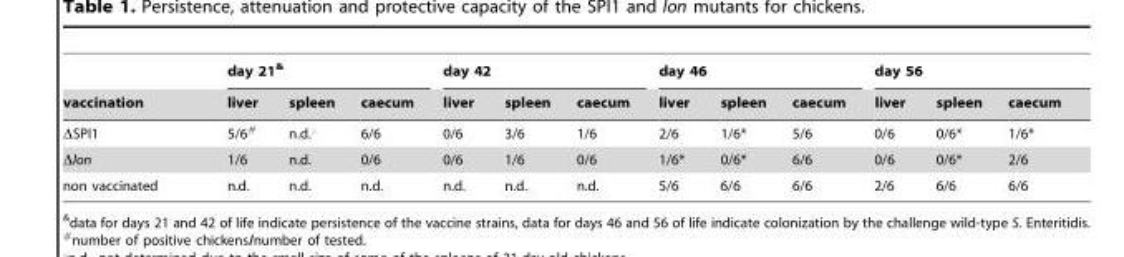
<table><thead><tr><td rowspan="2">vaccination</td><td colspan="3">day 21&amp;</td><td colspan="3">day 42</td><td colspan="3">day 46</td><td colspan="3">day 56</td></tr><tr><td>liver</td><td>spleen</td><td>caecum</td><td>liver</td><td>spleen</td><td>caecum</td><td>liver</td><td>spleen</td><td>caecum</td><td>liver</td><td>spleen</td><td>caecum</td></tr></thead><tbody><tr><td>ΔSPI1</td><td>5/6#</td><td>n.d.‘</td><td>6/6</td><td>0/6</td><td>3/6</td><td>1/6</td><td>2/6</td><td>1/6*</td><td>5/6</td><td>0/6</td><td>0/6*</td><td>1/6*</td></tr><tr><td>Δlon</td><td>1/6</td><td>n.d.</td><td>0/6</td><td>0/6</td><td>1/6</td><td>0/6</td><td>1/6*</td><td>0/6*</td><td>6/6</td><td>0/6</td><td>0/6*</td><td>2/6</td></tr><tr><td>non vaccinated</td><td>n.d.</td><td>n.d.</td><td>n.d.</td><td>n.d.</td><td>n.d.</td><td>n.d.</td><td>5/6</td><td>6/6</td><td>6/6</td><td>2/6</td><td>6/6</td><td>6/6</td></tr></tbody></table>